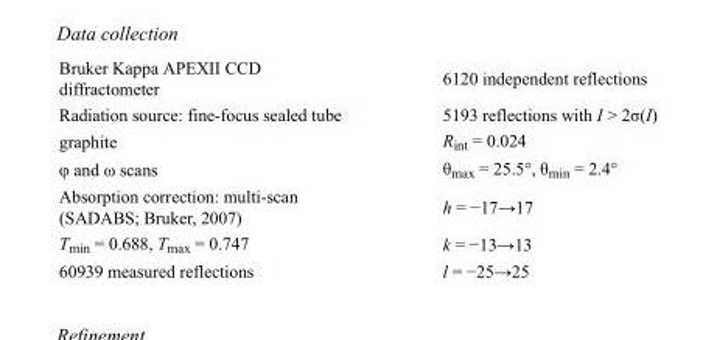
<table><tbody><tr><td>Bruker Kappa APEXII CCD diffractometer</td><td>6120 independent reflections</td></tr><tr><td>Radiation source: fine-focus sealed tube</td><td>5193 reflections with I &gt; 2σ(I)</td></tr><tr><td>graphite</td><td>R<sub>int</sub> = 0.024</td></tr><tr><td>φ and ω scans</td><td>θ<sub>max</sub> = 25.5°, θ<sub>min</sub> = 2.4°</td></tr><tr><td>Absorption correction: multi-scan (SADABS; Bruker, 2007)</td><td>h = −17→17</td></tr><tr><td>T<sub>min</sub> = 0.688, T<sub>max</sub> = 0.747</td><td>k = −13→13</td></tr><tr><td>60939 measured reflections</td><td>l = −25→25</td></tr></tbody></table>